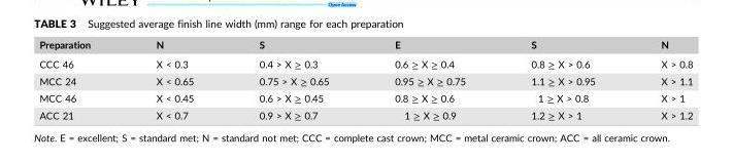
<table><thead><tr><td>Preparation</td><td>N</td><td>S</td><td>E</td><td>S</td><td>N</td></tr></thead><tbody><tr><td>CCC 46</td><td>X &lt; 0.3</td><td>0.4 &gt; X ≥ 0.3</td><td>0.6 ≥ X ≥ 0.4</td><td>0.8 ≥ X &gt; 0.6</td><td>X &gt; 0.8</td></tr><tr><td>MCC 24</td><td>X &lt; 0.65</td><td>0.75 &gt; X ≥ 0.65</td><td>0.95 ≥ X ≥ 0.75</td><td>1.1 ≥ X &gt; 0.95</td><td>X &gt; 1.1</td></tr><tr><td>MCC 46</td><td>X &lt; 0.45</td><td>0.6 &gt; X ≥ 0.45</td><td>0.8 ≥ X ≥ 0.6</td><td>1 ≥ X &gt; 0.8</td><td>X &gt; 1</td></tr><tr><td>ACC 21</td><td>X &lt; 0.7</td><td>0.9 &gt; X ≥ 0.7</td><td>1 ≥ X ≥ 0.9</td><td>1.2 ≥ X &gt; 1</td><td>X &gt; 1.2</td></tr></tbody></table>